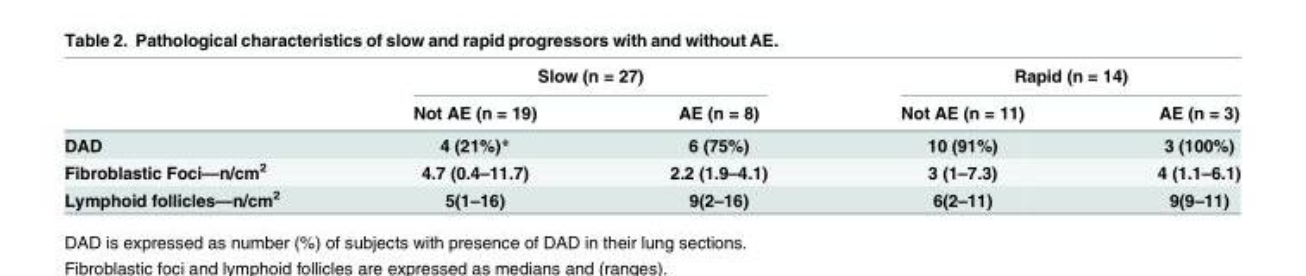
<table><thead><tr><td rowspan="2"></td><td colspan="2">Slow (n = 27)</td><td colspan="2">Rapid (n = 14)</td></tr><tr><td>Not AE (n = 19)</td><td>AE (n = 8)</td><td>Not AE (n = 11)</td><td>AE (n = 3)</td></tr></thead><tbody><tr><td>DAD</td><td>4 (21%)*</td><td>6 (75%)</td><td>10 (91%)</td><td>3 (100%)</td></tr><tr><td>Fibroblastic Foci—n/cm<sup>2</sup></td><td>4.7 (0.4–11.7)</td><td>2.2 (1.9–4.1)</td><td>3 (1–7.3)</td><td>4 (1.1–6.1)</td></tr><tr><td>Lymphoid follicles—n/cm<sup>2</sup></td><td>5(1–16)</td><td>9(2–16)</td><td>6(2–11)</td><td>9(9–11)</td></tr></tbody></table>